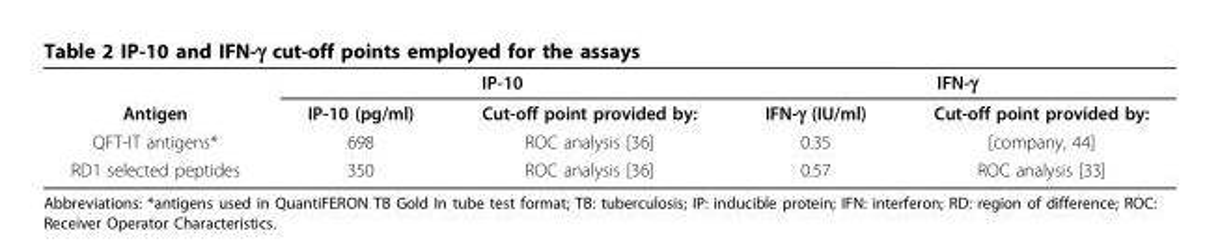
<table><thead><tr><td rowspan="2">Antigen</td><td colspan="2">IP-10</td><td colspan="2">IFN-γ</td></tr><tr><td>IP-10 (pg/ml)</td><td>Cut-off point provided by:</td><td>IFN-γ (IU/ml)</td><td>Cut-off point provided by:</td></tr></thead><tbody><tr><td>QFT-IT antigens*</td><td>698</td><td>ROC analysis [36]</td><td>0.35</td><td>[company, 44]</td></tr><tr><td>RD1 selected peptides</td><td>350</td><td>ROC analysis [36]</td><td>0.57</td><td>ROC analysis [33]</td></tr></tbody></table>